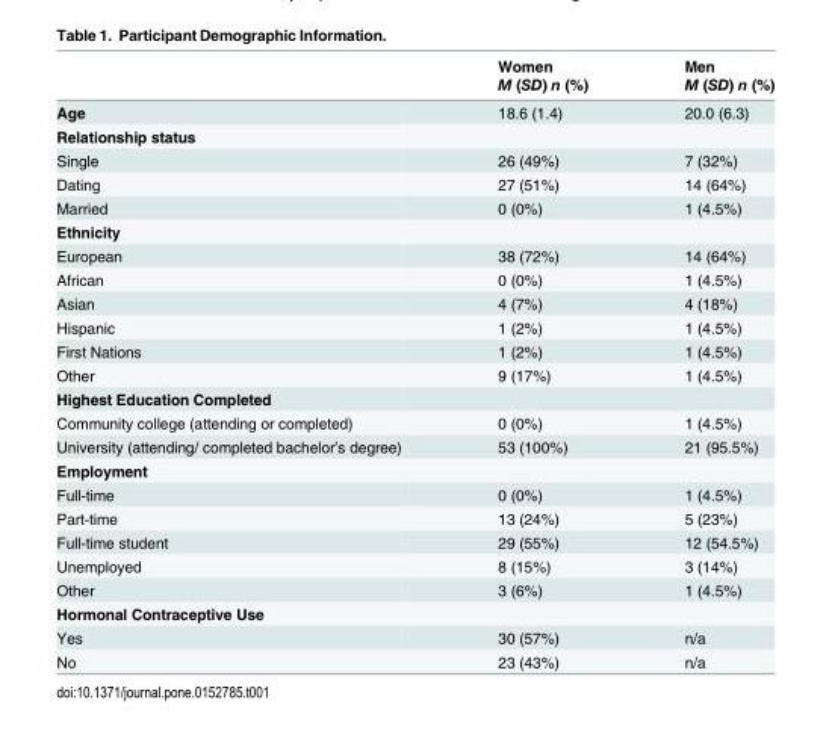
<table><thead><tr><td rowspan="2"></td><td rowspan="2">Women M (SD) n (%)</td><td rowspan="2">Men M (SD) n (%)</td></tr><tr></tr></thead><tbody><tr><td>Age</td><td>18.6 (1.4)</td><td>20.0 (6.3)</td></tr><tr><td colspan="3">Relationship status</td></tr><tr><td>Single</td><td>26 (49%)</td><td>7 (32%)</td></tr><tr><td>Dating</td><td>27 (51%)</td><td>14 (64%)</td></tr><tr><td>Married</td><td>0 (0%)</td><td>1 (4.5%)</td></tr><tr><td colspan="3">Ethnicity</td></tr><tr><td>European</td><td>38 (72%)</td><td>14 (64%)</td></tr><tr><td>African</td><td>0 (0%)</td><td>1 (4.5%)</td></tr><tr><td>Asian</td><td>4 (7%)</td><td>4 (18%)</td></tr><tr><td>Hispanic</td><td>1 (2%)</td><td>1 (4.5%)</td></tr><tr><td>First Nations</td><td>1 (2%)</td><td>1 (4.5%)</td></tr><tr><td>Other</td><td>9 (17%)</td><td>1 (4.5%)</td></tr><tr><td colspan="3">Highest Education Completed</td></tr><tr><td>Community college (attending or completed)</td><td>0 (0%)</td><td>1 (4.5%)</td></tr><tr><td>University (attending/ completed bachelor’s degree)</td><td>53 (100%)</td><td>21 (95.5%)</td></tr><tr><td colspan="3">Employment</td></tr><tr><td>Full-time</td><td>0 (0%)</td><td>1 (4.5%)</td></tr><tr><td>Part-time</td><td>13 (24%)</td><td>5 (23%)</td></tr><tr><td>Full-time student</td><td>29 (55%)</td><td>12 (54.5%)</td></tr><tr><td>Unemployed</td><td>8 (15%)</td><td>3 (14%)</td></tr><tr><td>Other</td><td>3 (6%)</td><td>1 (4.5%)</td></tr><tr><td colspan="3">Hormonal Contraceptive Use</td></tr><tr><td>Yes</td><td>30 (57%)</td><td>n/a</td></tr><tr><td>No</td><td>23 (43%)</td><td>n/a</td></tr></tbody></table>